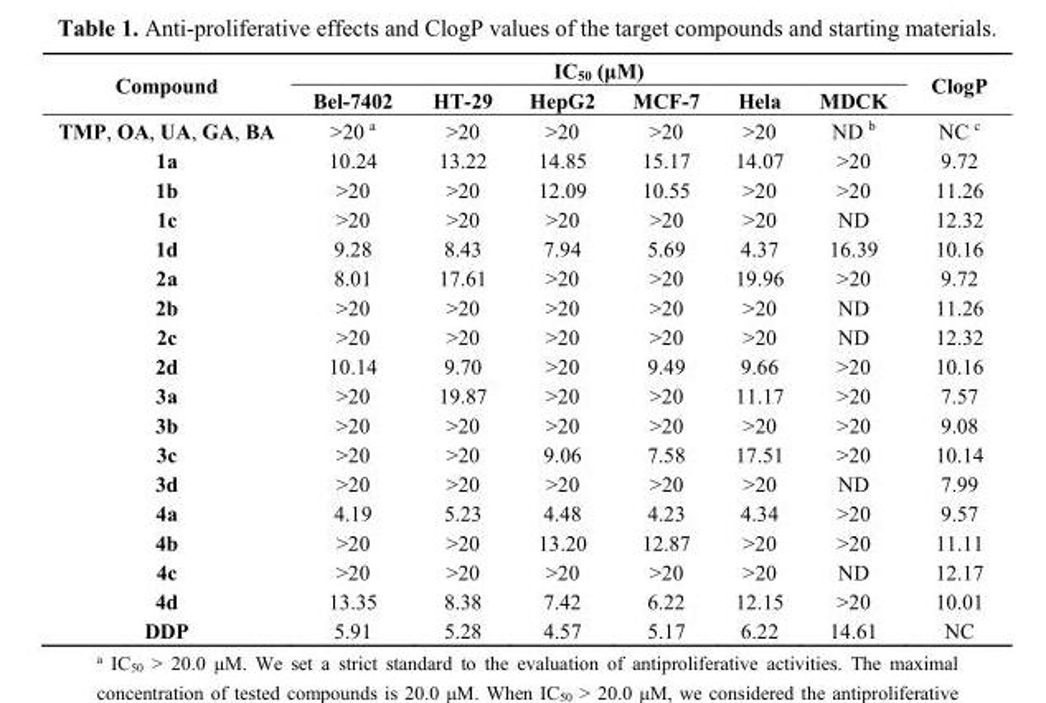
<table><thead><tr><td rowspan="2">Compound</td><td colspan="6">IC<sub>50</sub> (μM)</td><td rowspan="2">ClogP</td></tr><tr><td>Bel-7402</td><td>HT-29</td><td>HepG2</td><td>MCF-7</td><td>Hela</td><td>MDCK</td></tr></thead><tbody><tr><td>TMP, OA, UA, GA, BA</td><td>&gt;20 <sup>a</sup></td><td>&gt;20</td><td>&gt;20</td><td>&gt;20</td><td>&gt;20</td><td>ND <sup>b</sup></td><td>NC <sup>c</sup></td></tr><tr><td>1a</td><td>10.24</td><td>13.22</td><td>14.85</td><td>15.17</td><td>14.07</td><td>&gt;20</td><td>9.72</td></tr><tr><td>1b</td><td>&gt;20</td><td>&gt;20</td><td>12.09</td><td>10.55</td><td>&gt;20</td><td>&gt;20</td><td>11.26</td></tr><tr><td>1c</td><td>&gt;20</td><td>&gt;20</td><td>&gt;20</td><td>&gt;20</td><td>&gt;20</td><td>ND</td><td>12.32</td></tr><tr><td>1d</td><td>9.28</td><td>8.43</td><td>7.94</td><td>5.69</td><td>4.37</td><td>16.39</td><td>10.16</td></tr><tr><td>2a</td><td>8.01</td><td>17.61</td><td>&gt;20</td><td>&gt;20</td><td>19.96</td><td>&gt;20</td><td>9.72</td></tr><tr><td>2b</td><td>&gt;20</td><td>&gt;20</td><td>&gt;20</td><td>&gt;20</td><td>&gt;20</td><td>ND</td><td>11.26</td></tr><tr><td>2c</td><td>&gt;20</td><td>&gt;20</td><td>&gt;20</td><td>&gt;20</td><td>&gt;20</td><td>ND</td><td>12.32</td></tr><tr><td>2d</td><td>10.14</td><td>9.70</td><td>&gt;20</td><td>9.49</td><td>9.66</td><td>&gt;20</td><td>10.16</td></tr><tr><td>3a</td><td>&gt;20</td><td>19.87</td><td>&gt;20</td><td>&gt;20</td><td>11.17</td><td>&gt;20</td><td>7.57</td></tr><tr><td>3b</td><td>&gt;20</td><td>&gt;20</td><td>&gt;20</td><td>&gt;20</td><td>&gt;20</td><td>&gt;20</td><td>9.08</td></tr><tr><td>3c</td><td>&gt;20</td><td>&gt;20</td><td>9.06</td><td>7.58</td><td>17.51</td><td>&gt;20</td><td>10.14</td></tr><tr><td>3d</td><td>&gt;20</td><td>&gt;20</td><td>&gt;20</td><td>&gt;20</td><td>&gt;20</td><td>ND</td><td>7.99</td></tr><tr><td>4a</td><td>4.19</td><td>5.23</td><td>4.48</td><td>4.23</td><td>4.34</td><td>&gt;20</td><td>9.57</td></tr><tr><td>4b</td><td>&gt;20</td><td>&gt;20</td><td>13.20</td><td>12.87</td><td>&gt;20</td><td>&gt;20</td><td>11.11</td></tr><tr><td>4c</td><td>&gt;20</td><td>&gt;20</td><td>&gt;20</td><td>&gt;20</td><td>&gt;20</td><td>ND</td><td>12.17</td></tr><tr><td>4d</td><td>13.35</td><td>8.38</td><td>7.42</td><td>6.22</td><td>12.15</td><td>&gt;20</td><td>10.01</td></tr><tr><td>DDP</td><td>5.91</td><td>5.28</td><td>4.57</td><td>5.17</td><td>6.22</td><td>14.61</td><td>NC</td></tr></tbody></table>